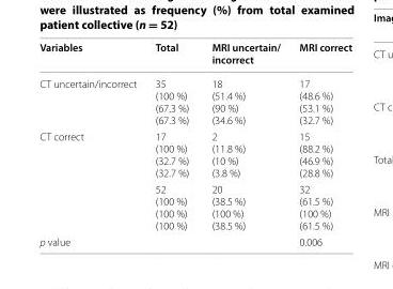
<table><thead><tr><td>Variables</td><td>Total</td><td>MRI uncertain/ incorrect</td><td>MRI correct</td></tr></thead><tbody><tr><td>CT uncertain/incorrect</td><td>35 (100 %) (67.3 %) (67.3 %)</td><td>18 (51.4 %) (90 %) (34.6 %)</td><td>17 (48.6 %) (53.1 %) (32.7 %)</td></tr><tr><td rowspan="2">CT correct</td><td>17 (100 %) (32.7 %) (32.7 %)</td><td>2 (11.8 %) (10 %) (3.8 %)</td><td>15 (88.2 %) (46.9 %) (28.8 %)</td></tr><tr><td>52 (100 %) (100 %) (100 %)</td><td>20 (38.5 %) (100 %) (38.5 %)</td><td>32 (61.5 %) (100 %) (61.5 %)</td></tr><tr><td>p value</td><td></td><td></td><td>0.006</td></tr></tbody></table>